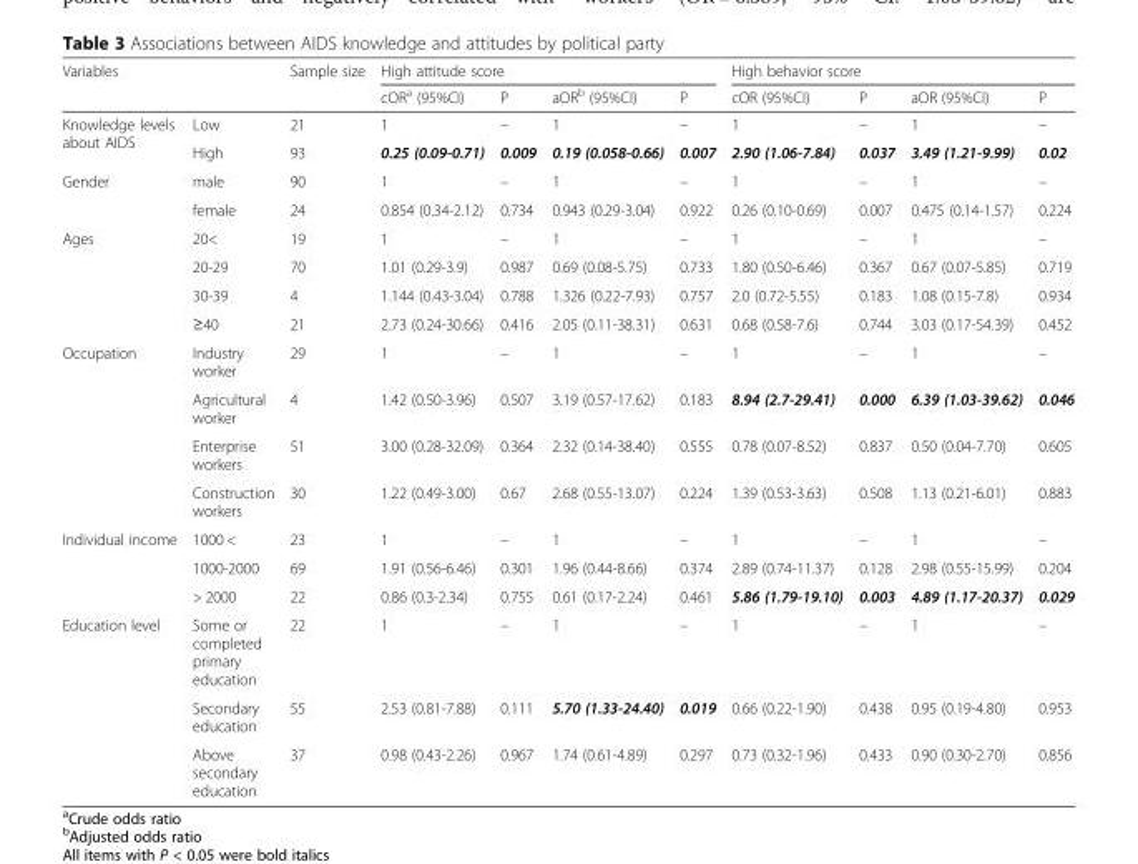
<table><thead><tr><td rowspan="2">Variables</td><td rowspan="2"></td><td rowspan="2">Sample size</td><td colspan="4">High attitude score</td><td colspan="4">High behavior score</td></tr><tr><td>cOR<sup>a</sup> (95%CI)</td><td>P</td><td>aOR<sup>b</sup> (95%CI)</td><td>P</td><td>cOR (95%CI)</td><td>P</td><td>aOR (95%CI)</td><td>P</td></tr></thead><tbody><tr><td rowspan="2">Knowledge levels about AIDS</td><td>Low</td><td>21</td><td>1</td><td>–</td><td>1</td><td>–</td><td>1</td><td>–</td><td>1</td><td>–</td></tr><tr><td>High</td><td>93</td><td>0.25 (0.09-0.71)</td><td>0.009</td><td>0.19 (0.058-0.66)</td><td>0.007</td><td>2.90 (1.06-7.84)</td><td>0.037</td><td>3.49 (1.21-9.99)</td><td>0.02</td></tr><tr><td rowspan="2">Gender</td><td>male</td><td>90</td><td>1</td><td>–</td><td>1</td><td>–</td><td>1</td><td>–</td><td>1</td><td>–</td></tr><tr><td>female</td><td>24</td><td>0.854 (0.34-2.12)</td><td>0.734</td><td>0.943 (0.29-3.04)</td><td>0.922</td><td>0.26 (0.10-0.69)</td><td>0.007</td><td>0.475 (0.14-1.57)</td><td>0.224</td></tr><tr><td rowspan="4">Ages</td><td>20&lt;</td><td>19</td><td>1</td><td>–</td><td>1</td><td>–</td><td>1</td><td>–</td><td>1</td><td>–</td></tr><tr><td>20-29</td><td>70</td><td>1.01 (0.29-3.9)</td><td>0.987</td><td>0.69 (0.08-5.75)</td><td>0.733</td><td>1.80 (0.50-6.46)</td><td>0.367</td><td>0.67 (0.07-5.85)</td><td>0.719</td></tr><tr><td>30-39</td><td>4</td><td>1.144 (0.43-3.04)</td><td>0.788</td><td>1.326 (0.22-7.93)</td><td>0.757</td><td>2.0 (0.72-5.55)</td><td>0.183</td><td>1.08 (0.15-7.8)</td><td>0.934</td></tr><tr><td>≥40</td><td>21</td><td>2.73 (0.24-30.66)</td><td>0.416</td><td>2.05 (0.11-38.31)</td><td>0.631</td><td>0.68 (0.58-7.6)</td><td>0.744</td><td>3.03 (0.17-54.39)</td><td>0.452</td></tr><tr><td rowspan="4">Occupation</td><td>Industry worker</td><td>29</td><td>1</td><td>–</td><td>1</td><td>–</td><td>1</td><td>–</td><td>1</td><td>–</td></tr><tr><td>Agricultural worker</td><td>4</td><td>1.42 (0.50-3.96)</td><td>0.507</td><td>3.19 (0.57-17.62)</td><td>0.183</td><td>8.94 (2.7-29.41)</td><td>0.000</td><td>6.39 (1.03-39.62)</td><td>0.046</td></tr><tr><td>Enterprise workers</td><td>51</td><td>3.00 (0.28-32.09)</td><td>0.364</td><td>2.32 (0.14-38.40)</td><td>0.555</td><td>0.78 (0.07-8.52)</td><td>0.837</td><td>0.50 (0.04-7.70)</td><td>0.605</td></tr><tr><td>Construction workers</td><td>30</td><td>1.22 (0.49-3.00)</td><td>0.67</td><td>2.68 (0.55-13.07)</td><td>0.224</td><td>1.39 (0.53-3.63)</td><td>0.508</td><td>1.13 (0.21-6.01)</td><td>0.883</td></tr><tr><td rowspan="3">Individual income</td><td>1000 &lt;</td><td>23</td><td>1</td><td>–</td><td>1</td><td>–</td><td>1</td><td>–</td><td>1</td><td>–</td></tr><tr><td>1000-2000</td><td>69</td><td>1.91 (0.56-6.46)</td><td>0.301</td><td>1.96 (0.44-8.66)</td><td>0.374</td><td>2.89 (0.74-11.37)</td><td>0.128</td><td>2.98 (0.55-15.99)</td><td>0.204</td></tr><tr><td>&gt; 2000</td><td>22</td><td>0.86 (0.3-2.34)</td><td>0.755</td><td>0.61 (0.17-2.24)</td><td>0.461</td><td>5.86 (1.79-19.10)</td><td>0.003</td><td>4.89 (1.17-20.37)</td><td>0.029</td></tr><tr><td rowspan="3">Education level</td><td>Some or completed primary education</td><td>22</td><td>1</td><td>–</td><td>1</td><td>–</td><td>1</td><td>–</td><td>1</td><td>–</td></tr><tr><td>Secondary education</td><td>55</td><td>2.53 (0.81-7.88)</td><td>0.111</td><td>5.70 (1.33-24.40)</td><td>0.019</td><td>0.66 (0.22-1.90)</td><td>0.438</td><td>0.95 (0.19-4.80)</td><td>0.953</td></tr><tr><td>Above secondary education</td><td>37</td><td>0.98 (0.43-2.26)</td><td>0.967</td><td>1.74 (0.61-4.89)</td><td>0.297</td><td>0.73 (0.32-1.96)</td><td>0.433</td><td>0.90 (0.30-2.70)</td><td>0.856</td></tr></tbody></table>